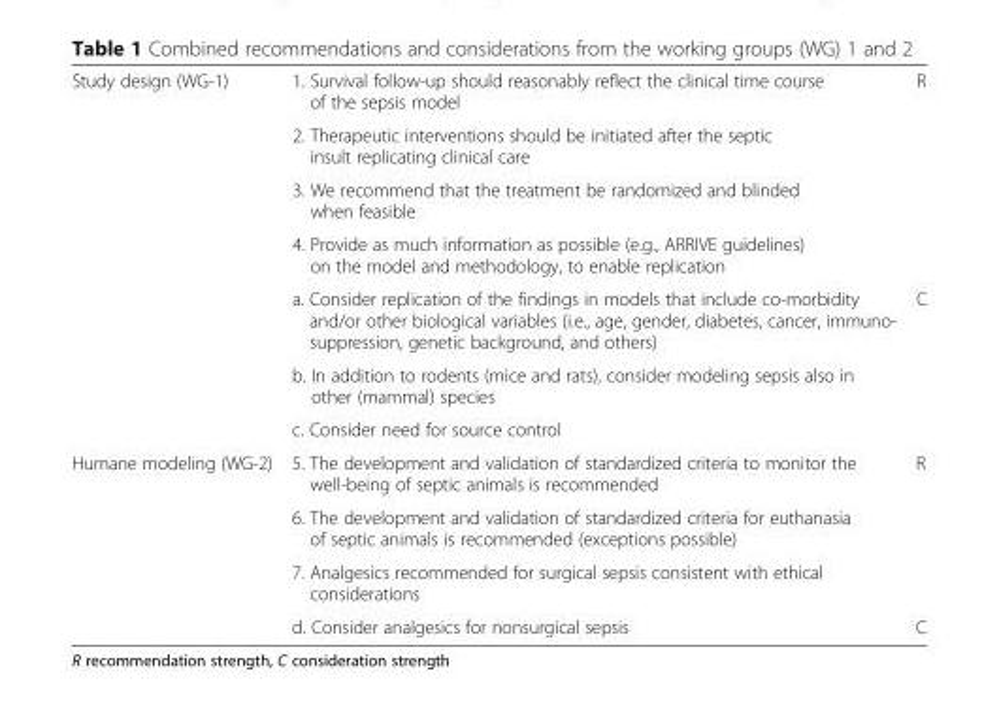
<table><tbody><tr><td rowspan="7">Study design (WG-1)</td><td>1. Survival follow-up should reasonably reflect the clinical time course of the sepsis model</td><td rowspan="4">R</td></tr><tr><td>2. Therapeutic interventions should be initiated after the septic insult replicating clinical care</td></tr><tr><td>3. We recommend that the treatment be randomized and blinded when feasible</td></tr><tr><td>4. Provide as much information as possible (e.g., ARRIVE guidelines) on the model and methodology, to enable replication</td></tr><tr><td>a. Consider replication of the findings in models that include co-morbidity and/or other biological variables (i.e., age, gender, diabetes, cancer, immuno- suppression, genetic background, and others)</td><td rowspan="3">C</td></tr><tr><td>b. In addition to rodents (mice and rats), consider modeling sepsis also in other (mammal) species</td></tr><tr><td>c. Consider need for source control</td></tr><tr><td rowspan="4">Humane modeling (WG-2)</td><td>5. The development and validation of standardized criteria to monitor the well-being of septic animals is recommended</td><td rowspan="3">R</td></tr><tr><td>6. The development and validation of standardized criteria for euthanasia of septic animals is recommended (exceptions possible)</td></tr><tr><td>7. Analgesics recommended for surgical sepsis consistent with ethical considerations</td></tr><tr><td>d. Consider analgesics for nonsurgical sepsis</td><td>C</td></tr></tbody></table>